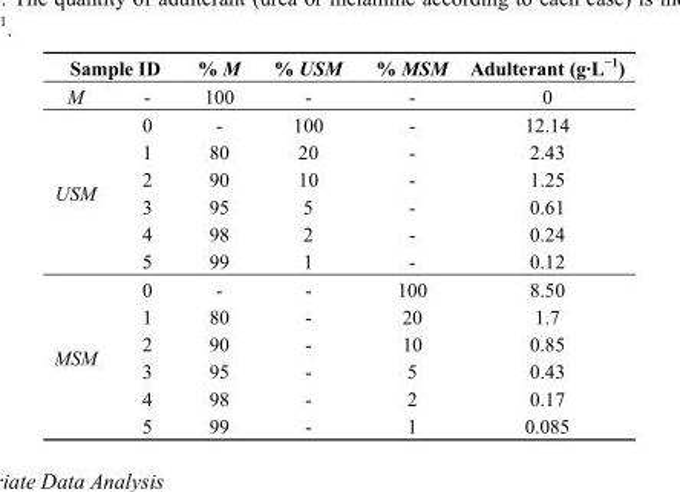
<table><thead><tr><td colspan="2">Sample ID</td><td rowspan="2">% M 100</td><td rowspan="2">% USM -</td><td rowspan="2">% MSM -</td><td rowspan="2">Adulterant (g·L−1) 0</td></tr><tr><td>M</td><td>-</td></tr></thead><tbody><tr><td rowspan="6">USM</td><td>0</td><td>-</td><td>100</td><td>-</td><td>12.14</td></tr><tr><td>1</td><td>80</td><td>20</td><td>-</td><td>2.43</td></tr><tr><td>2</td><td>90</td><td>10</td><td>-</td><td>1.25</td></tr><tr><td>3</td><td>95</td><td>5</td><td>-</td><td>0.61</td></tr><tr><td>4</td><td>98</td><td>2</td><td>-</td><td>0.24</td></tr><tr><td>5</td><td>99</td><td>1</td><td>-</td><td>0.12</td></tr><tr><td rowspan="6">MSM</td><td>0</td><td>-</td><td>-</td><td>100</td><td>8.50</td></tr><tr><td>1</td><td>80</td><td>-</td><td>20</td><td>1.7</td></tr><tr><td>2</td><td>90</td><td>-</td><td>10</td><td>0.85</td></tr><tr><td>3</td><td>95</td><td>-</td><td>5</td><td>0.43</td></tr><tr><td>4</td><td>98</td><td>-</td><td>2</td><td>0.17</td></tr><tr><td>5</td><td>99</td><td>-</td><td>1</td><td>0.085</td></tr></tbody></table>